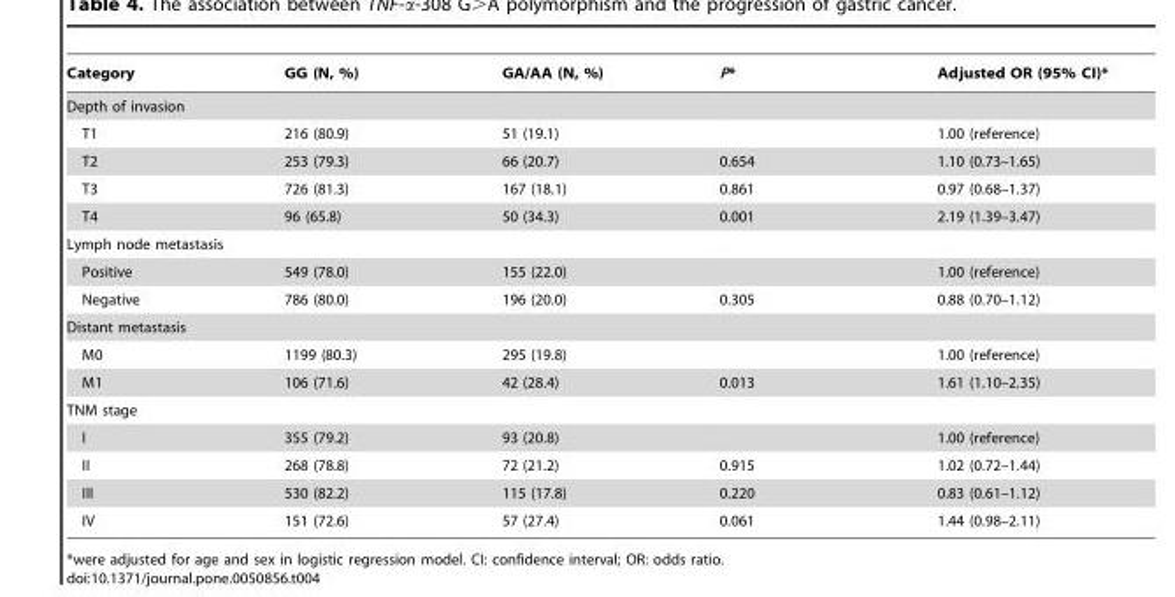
<table><thead><tr><td>Category</td><td>GG (N, %)</td><td>GA/AA (N, %)</td><td>P*</td><td>Adjusted OR (95% CI)*</td></tr></thead><tbody><tr><td colspan="5">Depth of invasion</td></tr><tr><td>T1</td><td>216 (80.9)</td><td>51 (19.1)</td><td></td><td>1.00 (reference)</td></tr><tr><td>T2</td><td>253 (79.3)</td><td>66 (20.7)</td><td>0.654</td><td>1.10 (0.73–1.65)</td></tr><tr><td>T3</td><td>726 (81.3)</td><td>167 (18.1)</td><td>0.861</td><td>0.97 (0.68–1.37)</td></tr><tr><td>T4</td><td>96 (65.8)</td><td>50 (34.3)</td><td>0.001</td><td>2.19 (1.39–3.47)</td></tr><tr><td colspan="5">Lymph node metastasis</td></tr><tr><td>Positive</td><td>549 (78.0)</td><td>155 (22.0)</td><td></td><td>1.00 (reference)</td></tr><tr><td>Negative</td><td>786 (80.0)</td><td>196 (20.0)</td><td>0.305</td><td>0.88 (0.70–1.12)</td></tr><tr><td colspan="5">Distant metastasis</td></tr><tr><td>M0</td><td>1199 (80.3)</td><td>295 (19.8)</td><td></td><td>1.00 (reference)</td></tr><tr><td>M1</td><td>106 (71.6)</td><td>42 (28.4)</td><td>0.013</td><td>1.61 (1.10–2.35)</td></tr><tr><td colspan="5">TNM stage</td></tr><tr><td>I</td><td>355 (79.2)</td><td>93 (20.8)</td><td></td><td>1.00 (reference)</td></tr><tr><td>II</td><td>268 (78.8)</td><td>72 (21.2)</td><td>0.915</td><td>1.02 (0.72–1.44)</td></tr><tr><td>III</td><td>530 (82.2)</td><td>115 (17.8)</td><td>0.220</td><td>0.83 (0.61–1.12)</td></tr><tr><td>IV</td><td>151 (72.6)</td><td>57 (27.4)</td><td>0.061</td><td>1.44 (0.98–2.11)</td></tr></tbody></table>